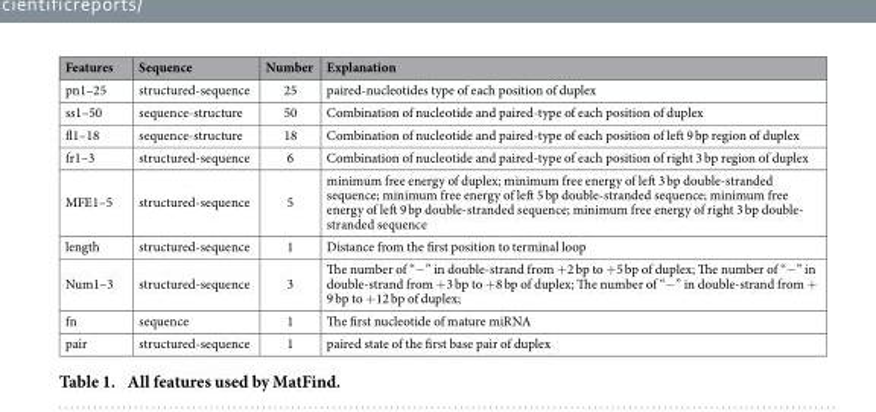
<table><thead><tr><td>Features</td><td>Sequence</td><td><sub>Number</sub></td><td><sub>Explanation</sub></td></tr></thead><tbody><tr><td>pn1–25</td><td>structured-sequence</td><td>25</td><td>paired-nucleotides type of each position of duplex</td></tr><tr><td>ss1–50</td><td>sequence-structure</td><td>50</td><td>Combination of nucleotide and paired-type of each position of duplex</td></tr><tr><td>fl1–18</td><td>sequence-structure</td><td>18</td><td>Combination of nucleotide and paired-type of each position of left 9 bp region of duplex</td></tr><tr><td>fr1–3</td><td>structured-sequence</td><td>6</td><td>Combination of nucleotide and paired-type of each position of right 3 bp region of duplex</td></tr><tr><td>MFE1–5</td><td>structured-sequence</td><td>5</td><td>minimum free energy of duplex; minimum free energy of left 3 bp double-stranded sequence; minimum free energy of left 5 bp double-stranded sequence; minimum free energy of left 9 bp double-stranded sequence; minimum free energy of right 3 bp double- stranded sequence</td></tr><tr><td>length</td><td>structured-sequence</td><td>1</td><td>Distance from the first position to terminal loop</td></tr><tr><td>Num1–3</td><td>structured-sequence</td><td>3</td><td>The number of “− ” in double-strand from + 2 bp to + 5 bp of duplex; The number of “− ” in double-strand from + 3 bp to + 8 bp of duplex; The number of “− ” in double-strand from + 9 bp to + 12 bp of duplex;</td></tr><tr><td>fn</td><td>sequence</td><td>1</td><td>The first nucleotide of mature miRNA</td></tr><tr><td>pair</td><td>structured-sequence</td><td>1</td><td>paired state of the first base pair of duplex</td></tr></tbody></table>